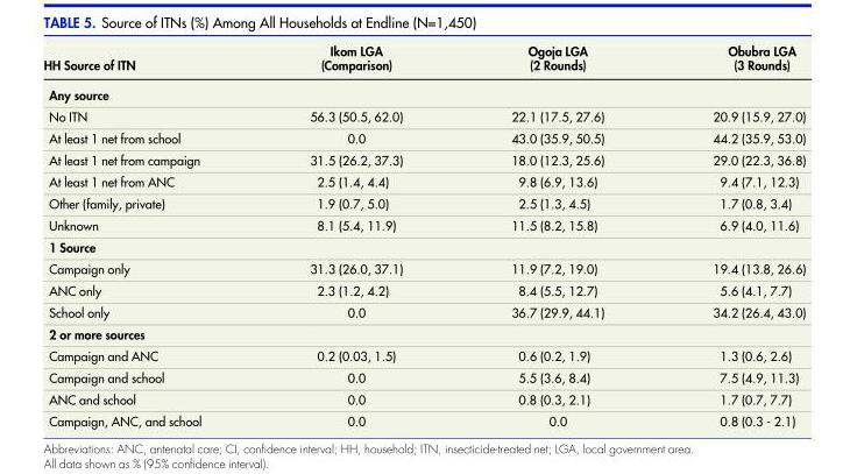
<table><thead><tr><td>HH Source of ITN</td><td>Ikom LGA (Comparison)</td><td>Ogoja LGA (2 Rounds)</td><td>Obubra LGA (3 Rounds)</td></tr></thead><tbody><tr><td colspan="4">Any source</td></tr><tr><td>No ITN</td><td>56.3 (50.5, 62.0)</td><td>22.1 (17.5, 27.6)</td><td>20.9 (15.9, 27.0)</td></tr><tr><td>At least 1 net from school</td><td>0.0</td><td>43.0 (35.9, 50.5)</td><td>44.2 (35.9, 53.0)</td></tr><tr><td>At least 1 net from campaign</td><td>31.5 (26.2, 37.3)</td><td>18.0 (12.3, 25.6)</td><td>29.0 (22.3, 36.8)</td></tr><tr><td>At least 1 net from ANC</td><td>2.5 (1.4, 4.4)</td><td>9.8 (6.9, 13.6)</td><td>9.4 (7.1, 12.3)</td></tr><tr><td>Other (family, private)</td><td>1.9 (0.7, 5.0)</td><td>2.5 (1.3, 4.5)</td><td>1.7 (0.8, 3.4)</td></tr><tr><td>Unknown</td><td>8.1 (5.4, 11.9)</td><td>11.5 (8.2, 15.8)</td><td>6.9 (4.0, 11.6)</td></tr><tr><td colspan="4">1 Source</td></tr><tr><td>Campaign only</td><td>31.3 (26.0, 37.1)</td><td>11.9 (7.2, 19.0)</td><td>19.4 (13.8, 26.6)</td></tr><tr><td>ANC only</td><td>2.3 (1.2, 4.2)</td><td>8.4 (5.5, 12.7)</td><td>5.6 (4.1, 7.7)</td></tr><tr><td>School only</td><td>0.0</td><td>36.7 (29.9, 44.1)</td><td>34.2 (26.4, 43.0)</td></tr><tr><td colspan="4">2 or more sources</td></tr><tr><td>Campaign and ANC</td><td>0.2 (0.03, 1.5)</td><td>0.6 (0.2, 1.9)</td><td>1.3 (0.6, 2.6)</td></tr><tr><td>Campaign and school</td><td>0.0</td><td>5.5 (3.6, 8.4)</td><td>7.5 (4.9, 11.3)</td></tr><tr><td>ANC and school</td><td>0.0</td><td>0.8 (0.3, 2.1)</td><td>1.7 (0.7, 7.7)</td></tr><tr><td>Campaign, ANC, and school</td><td>0.0</td><td>0.0</td><td>0.8 (0.3 - 2.1)</td></tr></tbody></table>